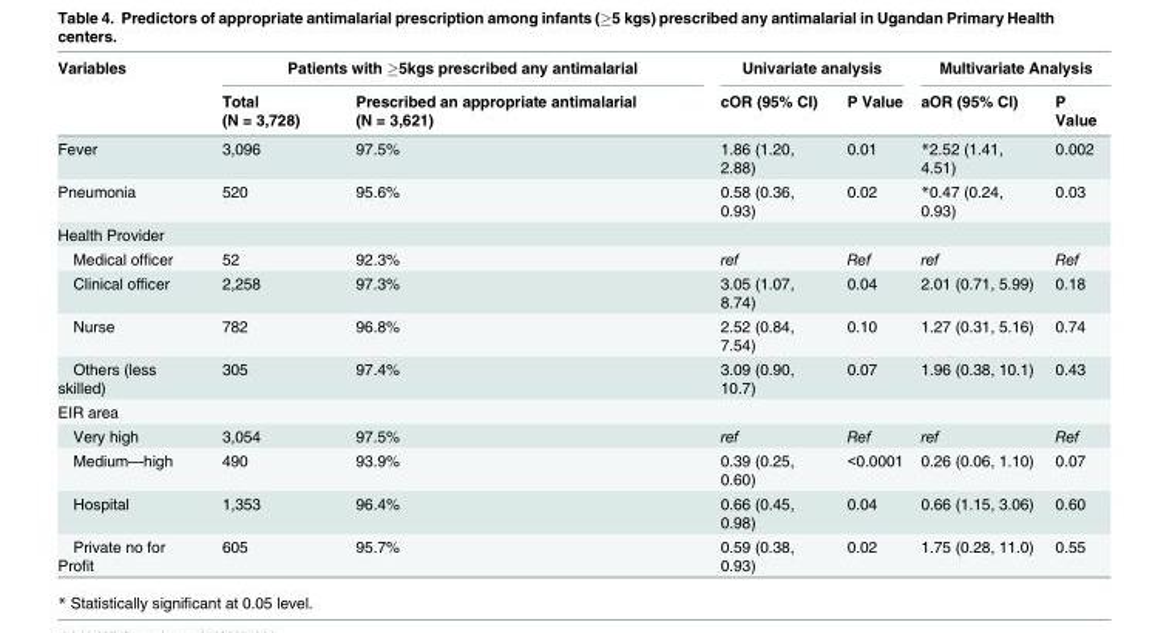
<table><thead><tr><td rowspan="2">Variables</td><td colspan="2">Patients with ≥5kgs prescribed any antimalarial</td><td colspan="2">Univariate analysis</td><td colspan="2">Multivariate Analysis</td></tr><tr><td>Total (N = 3,728)</td><td>Prescribed an appropriate antimalarial (N = 3,621)</td><td>cOR (95% CI)</td><td>P Value</td><td>aOR (95% CI)</td><td>P Value</td></tr></thead><tbody><tr><td>Fever</td><td>3,096</td><td>97.5%</td><td>1.86 (1.20, 2.88)</td><td>0.01</td><td>*2.52 (1.41, 4.51)</td><td>0.002</td></tr><tr><td>Pneumonia</td><td>520</td><td>95.6%</td><td>0.58 (0.36, 0.93)</td><td>0.02</td><td>*0.47 (0.24, 0.93)</td><td>0.03</td></tr><tr><td colspan="7">Health Provider</td></tr><tr><td>Medical officer</td><td>52</td><td>92.3%</td><td>ref</td><td>Ref</td><td>ref</td><td>Ref</td></tr><tr><td>Clinical officer</td><td>2,258</td><td>97.3%</td><td>3.05 (1.07, 8.74)</td><td>0.04</td><td>2.01 (0.71, 5.99)</td><td>0.18</td></tr><tr><td>Nurse</td><td>782</td><td>96.8%</td><td>2.52 (0.84, 7.54)</td><td>0.10</td><td>1.27 (0.31, 5.16)</td><td>0.74</td></tr><tr><td>Others (less skilled)</td><td>305</td><td>97.4%</td><td>3.09 (0.90, 10.7)</td><td>0.07</td><td>1.96 (0.38, 10.1)</td><td>0.43</td></tr><tr><td colspan="7">EIR area</td></tr><tr><td>Very high</td><td>3,054</td><td>97.5%</td><td>ref</td><td>Ref</td><td>ref</td><td>Ref</td></tr><tr><td>Medium—high</td><td>490</td><td>93.9%</td><td>0.39 (0.25, 0.60)</td><td>&lt;0.0001</td><td>0.26 (0.06, 1.10)</td><td>0.07</td></tr><tr><td>Hospital</td><td>1,353</td><td>96.4%</td><td>0.66 (0.45, 0.98)</td><td>0.04</td><td>0.66 (1.15, 3.06)</td><td>0.60</td></tr><tr><td>Private no for Profit</td><td>605</td><td>95.7%</td><td>0.59 (0.38, 0.93)</td><td>0.02</td><td>1.75 (0.28, 11.0)</td><td>0.55</td></tr></tbody></table>